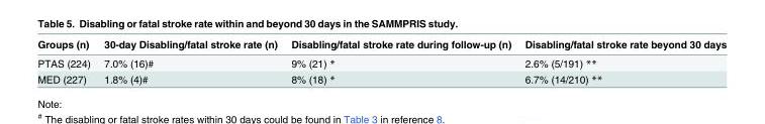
<table><thead><tr><td>Groups (n)</td><td>30-day Disabling/fatal stroke rate (n)</td><td>Disabling/fatal stroke rate during follow-up (n)</td><td>Disabling/fatal stroke rate beyond 30 days</td></tr></thead><tbody><tr><td>PTAS (224)</td><td>7.0% (16)#</td><td>9% (21) *</td><td>2.6% (5/191) **</td></tr><tr><td>MED (227)</td><td>1.8% (4)#</td><td>8% (18) *</td><td>6.7% (14/210) **</td></tr></tbody></table>